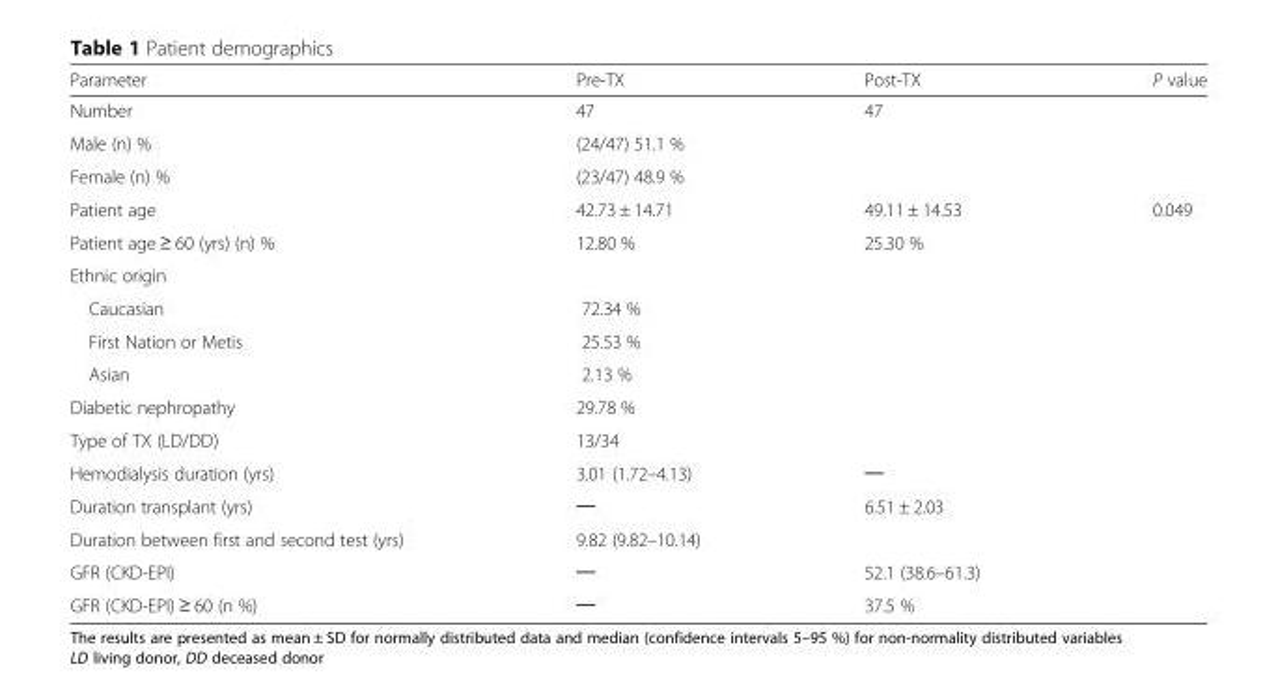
<table><thead><tr><td>Parameter</td><td>Pre-TX</td><td>Post-TX</td><td>P value</td></tr></thead><tbody><tr><td>Number</td><td>47</td><td>47</td><td></td></tr><tr><td>Male (n) %</td><td colspan="2">(24/47) 51.1 %</td><td></td></tr><tr><td>Female (n) %</td><td colspan="2">(23/47) 48.9 %</td><td></td></tr><tr><td>Patient age</td><td>42.73 ± 14.71</td><td>49.11 ± 14.53</td><td>0.049</td></tr><tr><td>Patient age ≥ 60 (yrs) (n) %</td><td>12.80 %</td><td>25.30 %</td><td></td></tr><tr><td colspan="4">Ethnic origin</td></tr><tr><td>Caucasian</td><td colspan="2">72.34 %</td><td></td></tr><tr><td>First Nation or Metis</td><td colspan="2">25.53 %</td><td></td></tr><tr><td>Asian</td><td colspan="2">2.13 %</td><td></td></tr><tr><td>Diabetic nephropathy</td><td colspan="2">29.78 %</td><td></td></tr><tr><td>Type of TX (LD/DD)</td><td colspan="2">13/34</td><td></td></tr><tr><td>Hemodialysis duration (yrs)</td><td>3.01 (1.72–4.13)</td><td>─</td><td></td></tr><tr><td>Duration transplant (yrs)</td><td>─</td><td>6.51 ± 2.03</td><td></td></tr><tr><td>Duration between first and second test (yrs)</td><td colspan="2">9.82 (9.82–10.14)</td><td></td></tr><tr><td>GFR (CKD-EPI)</td><td>─</td><td>52.1 (38.6–61.3)</td><td></td></tr><tr><td>GFR (CKD-EPI) ≥ 60 (n %)</td><td>─</td><td>37.5 %</td><td></td></tr></tbody></table>